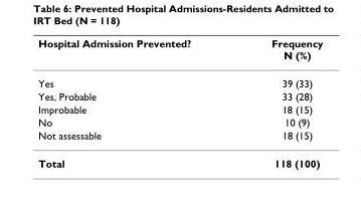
<table><thead><tr><td>Hospital Admission Prevented?</td><td>Frequency N (%)</td></tr></thead><tbody><tr><td>Yes</td><td>39 (33)</td></tr><tr><td>Yes, Probable</td><td>33 (28)</td></tr><tr><td>Improbable</td><td>18 (15)</td></tr><tr><td>No</td><td>10 (9)</td></tr><tr><td>Not assessable</td><td>18 (15)</td></tr><tr><td>Total</td><td>118 (100)</td></tr></tbody></table>